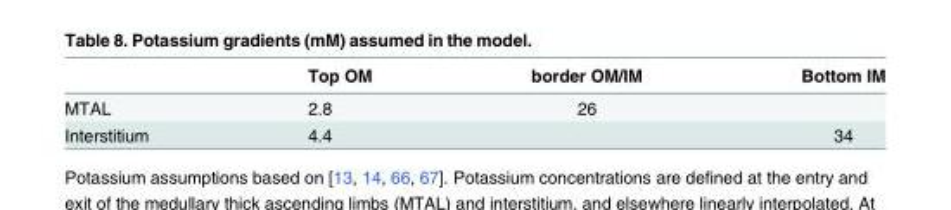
<table><thead><tr><td></td><td>Top OM</td><td>border OM/IM</td><td>Bottom IM</td></tr></thead><tbody><tr><td>MTAL</td><td>2.8</td><td>26</td><td></td></tr><tr><td>Interstitium</td><td>4.4</td><td></td><td>34</td></tr></tbody></table>